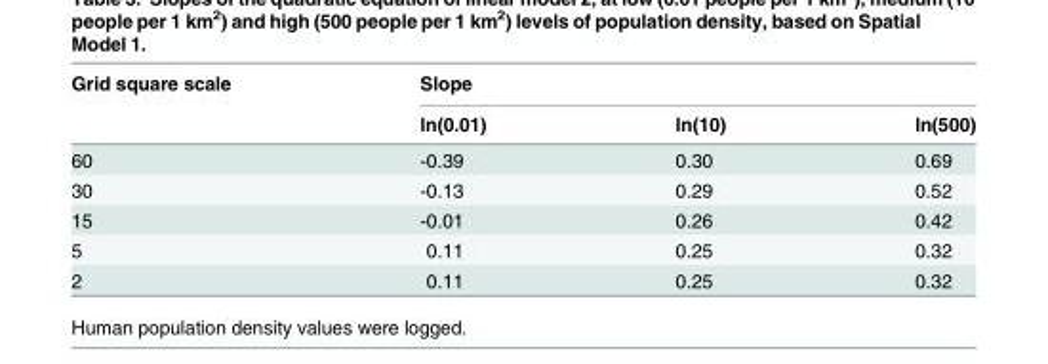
<table><thead><tr><td rowspan="2">Grid square scale</td><td colspan="3">Slope</td></tr><tr><td>ln(0.01)</td><td>ln(10)</td><td>ln(500)</td></tr></thead><tbody><tr><td>60</td><td>-0.39</td><td>0.30</td><td>0.69</td></tr><tr><td>30</td><td>-0.13</td><td>0.29</td><td>0.52</td></tr><tr><td>15</td><td>-0.01</td><td>0.26</td><td>0.42</td></tr><tr><td>5</td><td>0.11</td><td>0.25</td><td>0.32</td></tr><tr><td>2</td><td>0.11</td><td>0.25</td><td>0.32</td></tr></tbody></table>